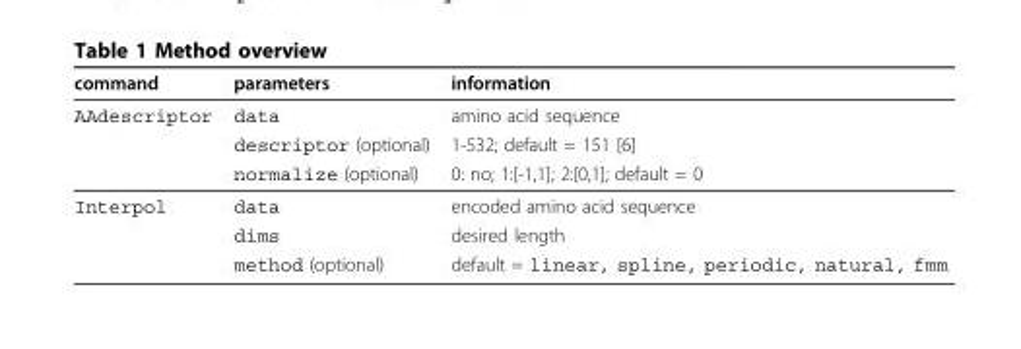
<table><thead><tr><td>command</td><td>parameters</td><td>information</td></tr></thead><tbody><tr><td rowspan="3">AAdescriptor</td><td>data</td><td>amino acid sequence</td></tr><tr><td>descriptor (optional)</td><td>1-532; default = 151 [6]</td></tr><tr><td>normalize (optional)</td><td>0: no; 1:[-1,1]; 2:[0,1]; default = 0</td></tr><tr><td rowspan="3">Interpol</td><td>data</td><td>encoded amino acid sequence</td></tr><tr><td>dims</td><td>desired length</td></tr><tr><td>method (optional)</td><td>default = linear, spline, periodic, natural, fmm</td></tr></tbody></table>